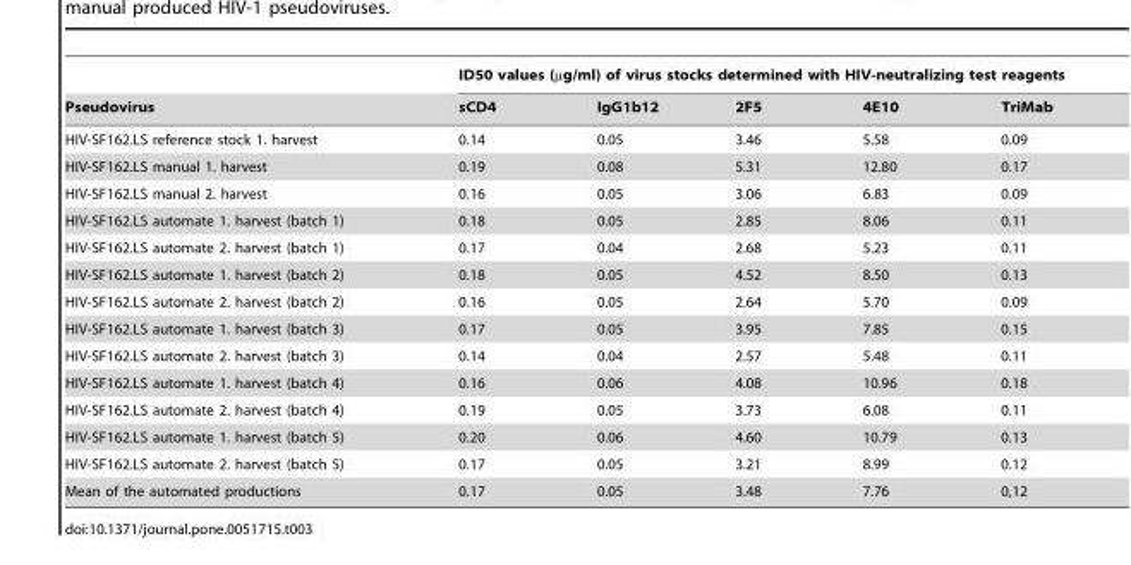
<table><thead><tr><td rowspan="2">Pseudovirus</td><td colspan="5">ID50 values (µg/ml) of virus stocks determined with HIV-neutralizing test reagents</td></tr><tr><td>sCD4</td><td>IgG1b12</td><td>2F5</td><td>4E10</td><td>TriMab</td></tr></thead><tbody><tr><td>HIV-SF162.LS reference stock 1. harvest</td><td>0.14</td><td>0.05</td><td>3.46</td><td>5.58</td><td>0.09</td></tr><tr><td>HIV-SF162.LS manual 1. harvest</td><td>0.19</td><td>0.08</td><td>5.31</td><td>12.80</td><td>0.17</td></tr><tr><td>HIV-SF162.LS manual 2. harvest</td><td>0.16</td><td>0.05</td><td>3.06</td><td>6.83</td><td>0.09</td></tr><tr><td>HIV-SF162.LS automate 1. harvest (batch 1)</td><td>0.18</td><td>0.05</td><td>2.85</td><td>8.06</td><td>0.11</td></tr><tr><td>HIV-SF162.LS automate 2. harvest (batch 1)</td><td>0.17</td><td>0.04</td><td>2.68</td><td>5.23</td><td>0.11</td></tr><tr><td>HIV-SF162.LS automate 1. harvest (batch 2)</td><td>0.18</td><td>0.05</td><td>4.52</td><td>8.50</td><td>0.13</td></tr><tr><td>HIV-SF162.LS automate 2. harvest (batch 2)</td><td>0.16</td><td>0.05</td><td>2.64</td><td>5.70</td><td>0.09</td></tr><tr><td>HIV-SF162.LS automate 1. harvest (batch 3)</td><td>0.17</td><td>0.05</td><td>3.95</td><td>7.85</td><td>0.15</td></tr><tr><td>HIV-SF162.LS automate 2. harvest (batch 3)</td><td>0.14</td><td>0.04</td><td>2.57</td><td>5.48</td><td>0.11</td></tr><tr><td>HIV-SF162.LS automate 1. harvest (batch 4)</td><td>0.16</td><td>0.06</td><td>4.08</td><td>10.96</td><td>0.18</td></tr><tr><td>HIV-SF162.LS automate 2. harvest (batch 4)</td><td>0.19</td><td>0.05</td><td>3.73</td><td>6.08</td><td>0.11</td></tr><tr><td>HIV-SF162.LS automate 1. harvest (batch 5)</td><td>0.20</td><td>0.06</td><td>4.60</td><td>10.79</td><td>0.13</td></tr><tr><td>HIV-SF162.LS automate 2. harvest (batch 5)</td><td>0.17</td><td>0.05</td><td>3.21</td><td>8.99</td><td>0.12</td></tr><tr><td>Mean of the automated productions</td><td>0.17</td><td>0.05</td><td>3.48</td><td>7.76</td><td>0,12</td></tr></tbody></table>